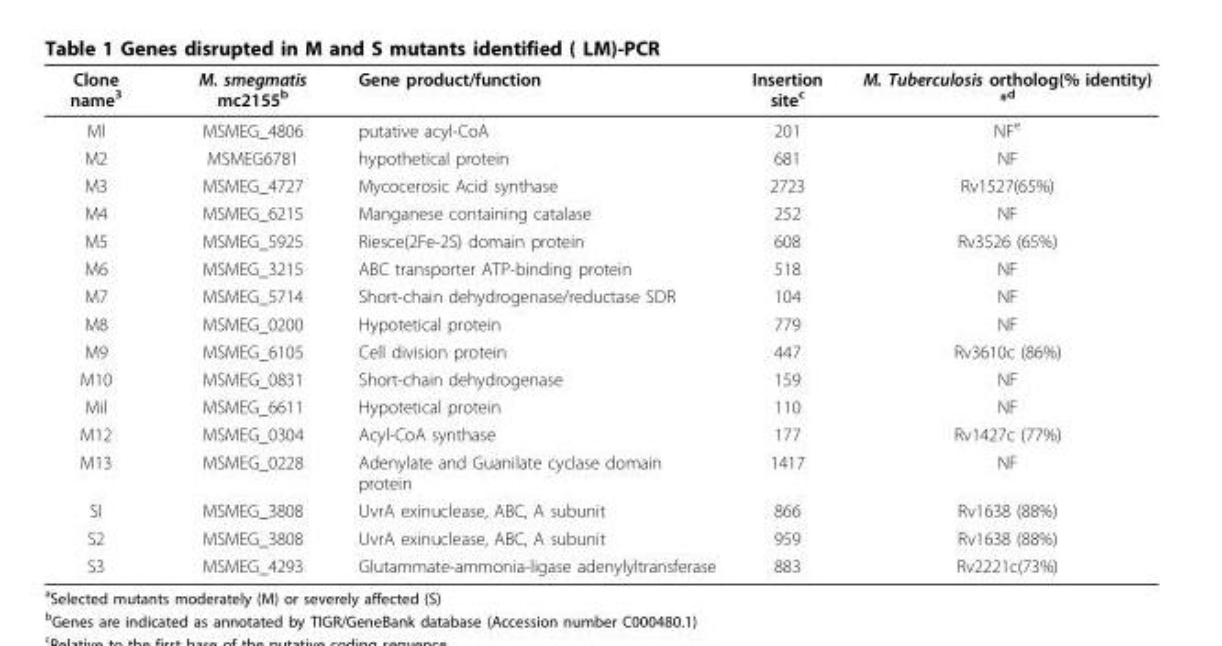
<table><thead><tr><td>Clone name<sup>3</sup></td><td>M. smegmatis mc2155<sup>b</sup></td><td>Gene product/function</td><td>Insertion site<sup>c</sup></td><td>M. Tuberculosis ortholog(% identity) *<sup>d</sup></td></tr></thead><tbody><tr><td>Ml</td><td>MSMEG_4806</td><td>putative acyl-CoA</td><td>201</td><td>NF<sup>e</sup></td></tr><tr><td>M2</td><td>MSMEG6781</td><td>hypothetical protein</td><td>681</td><td>NF</td></tr><tr><td>M3</td><td>MSMEG_4727</td><td>Mycocerosic Acid synthase</td><td>2723</td><td>Rv1527(65%)</td></tr><tr><td>M4</td><td>MSMEG_6215</td><td>Manganese containing catalase</td><td>252</td><td>NF</td></tr><tr><td>M5</td><td>MSMEG_5925</td><td>Riesce(2Fe-2S) domain protein</td><td>608</td><td>Rv3526 (65%)</td></tr><tr><td>M6</td><td>MSMEG_3215</td><td>ABC transporter ATP-binding protein</td><td>518</td><td>NF</td></tr><tr><td>M7</td><td>MSMEG_5714</td><td>Short-chain dehydrogenase/reductase SDR</td><td>104</td><td>NF</td></tr><tr><td>M8</td><td>MSMEG_0200</td><td>Hypotetical protein</td><td>779</td><td>NF</td></tr><tr><td>M9</td><td>MSMEG_6105</td><td>Cell division protein</td><td>447</td><td>Rv3610c (86%)</td></tr><tr><td>M10</td><td>MSMEG_0831</td><td>Short-chain dehydrogenase</td><td>159</td><td>NF</td></tr><tr><td>Mil</td><td>MSMEG_6611</td><td>Hypotetical protein</td><td>110</td><td>NF</td></tr><tr><td>M12</td><td>MSMEG_0304</td><td>Acyl-CoA synthase</td><td>177</td><td>Rv1427c (77%)</td></tr><tr><td>M13</td><td>MSMEG_0228</td><td>Adenylate and Guanilate cyclase domain protein</td><td>1417</td><td>NF</td></tr><tr><td>SI</td><td>MSMEG_3808</td><td>UvrA exinuclease, ABC, A subunit</td><td>866</td><td>Rv1638 (88%)</td></tr><tr><td>S2</td><td>MSMEG_3808</td><td>UvrA exinuclease, ABC, A subunit</td><td>959</td><td>Rv1638 (88%)</td></tr><tr><td>S3</td><td>MSMEG_4293</td><td>Glutammate-ammonia-ligase adenylyltransferase</td><td>883</td><td>Rv2221c(73%)</td></tr></tbody></table>